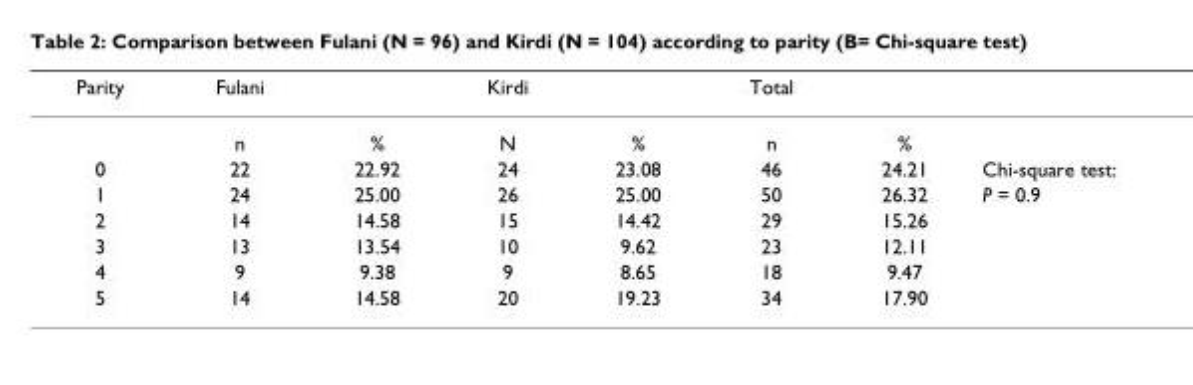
<table><thead><tr><td>Parity</td><td>Fulani</td><td></td><td>Kirdi</td><td></td><td>Total</td><td></td><td></td></tr></thead><tbody><tr><td></td><td>n</td><td>%</td><td>N</td><td>%</td><td>n</td><td>%</td><td></td></tr><tr><td>0</td><td>22</td><td>22.92</td><td>24</td><td>23.08</td><td>46</td><td>24.21</td><td>Chi-square test:</td></tr><tr><td>1</td><td>24</td><td>25.00</td><td>26</td><td>25.00</td><td>50</td><td>26.32</td><td>P = 0.9</td></tr><tr><td>2</td><td>14</td><td>14.58</td><td>15</td><td>14.42</td><td>29</td><td>15.26</td><td></td></tr><tr><td>3</td><td>13</td><td>13.54</td><td>10</td><td>9.62</td><td>23</td><td>12.11</td><td></td></tr><tr><td>4</td><td>9</td><td>9.38</td><td>9</td><td>8.65</td><td>18</td><td>9.47</td><td></td></tr><tr><td>5</td><td>14</td><td>14.58</td><td>20</td><td>19.23</td><td>34</td><td>17.90</td><td></td></tr></tbody></table>